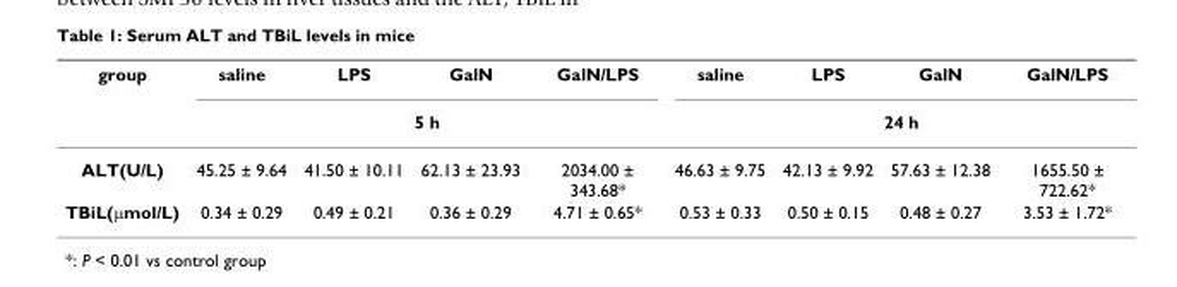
<table><thead><tr><td rowspan="2">group</td><td>saline</td><td>LPS</td><td>GalN</td><td>GalN/LPS</td><td>saline</td><td>LPS</td><td>GalN</td><td>GalN/LPS</td></tr><tr><td colspan="4">5 h</td><td colspan="4">24 h</td></tr></thead><tbody><tr><td>ALT(U/L)</td><td>45.25 ± 9.64</td><td>41.50 ± 10.11</td><td>62.13 ± 23.93</td><td>2034.00 ± 343.68*</td><td>46.63 ± 9.75</td><td>42.13 ± 9.92</td><td>57.63 ± 12.38</td><td>1655.50 ± 722.62*</td></tr><tr><td>TBiL(μmol/L)</td><td>0.34 ± 0.29</td><td>0.49 ± 0.21</td><td>0.36 ± 0.29</td><td>4.71 ± 0.65*</td><td>0.53 ± 0.33</td><td>0.50 ± 0.15</td><td>0.48 ± 0.27</td><td>3.53 ± 1.72*</td></tr></tbody></table>